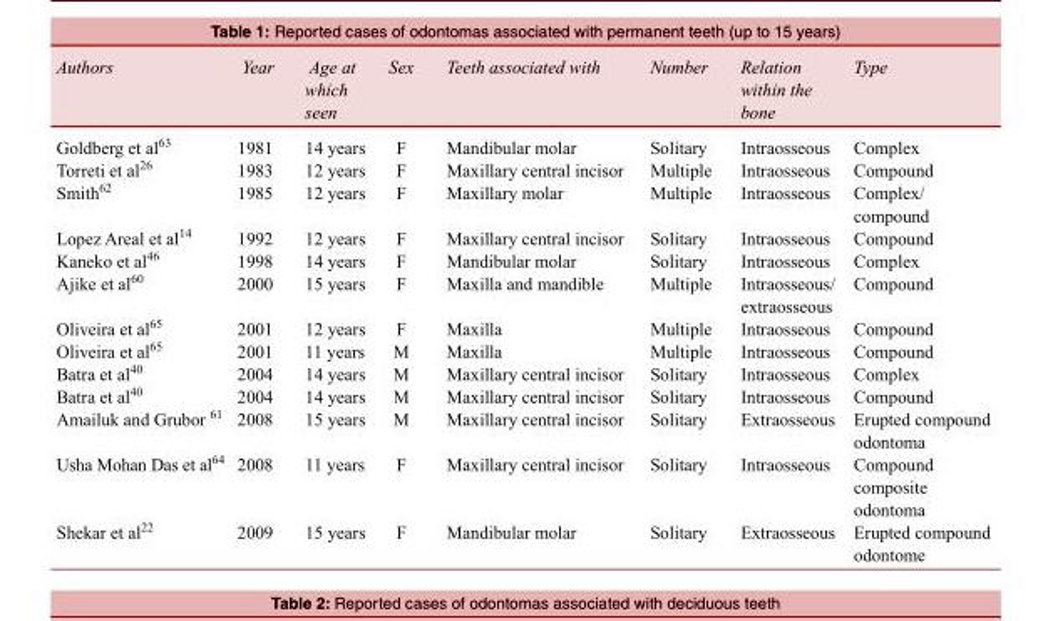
<table><tbody><tr><td>Authors</td><td>Year</td><td>Age at which seen</td><td>Sex</td><td>Teeth associated with</td><td>Number</td><td>Relation within the bone</td><td>Type</td></tr><tr><td>Goldberg et al<sup>63</sup></td><td>1981</td><td>14 years</td><td>F</td><td>Mandibular molar</td><td>Solitary</td><td>Intraosseous</td><td>Complex</td></tr><tr><td>Torreti et al<sup>26</sup></td><td>1983</td><td>12 years</td><td>F</td><td>Maxillary central incisor</td><td>Multiple</td><td>Intraosseous</td><td>Compound</td></tr><tr><td rowspan="2">Smith<sup>62</sup></td><td>1985</td><td>12 years</td><td>F</td><td>Maxillary molar</td><td>Multiple</td><td>Intraosseous</td><td>Complex/</td></tr><tr><td></td><td></td><td></td><td></td><td></td><td></td><td>compound</td></tr><tr><td>Lopez Areal et al<sup>14</sup></td><td>1992</td><td>12 years</td><td>F</td><td>Maxillary central incisor</td><td>Solitary</td><td>Intraosseous</td><td>Compound</td></tr><tr><td>Kaneko et al<sup>46</sup></td><td>1998</td><td>14 years</td><td>F</td><td>Mandibular molar</td><td>Solitary</td><td>Intraosseous</td><td>Complex</td></tr><tr><td rowspan="2">Ajike et al<sup>60</sup></td><td>2000</td><td>15 years</td><td>F</td><td>Maxilla and mandible</td><td>Multiple</td><td>Intraosseous/</td><td>Compound</td></tr><tr><td></td><td></td><td></td><td></td><td></td><td>extraosseous</td><td></td></tr><tr><td>Oliveira et al<sup>65</sup></td><td>2001</td><td>12 years</td><td>F</td><td>Maxilla</td><td>Multiple</td><td>Intraosseous</td><td>Compound</td></tr><tr><td>Oliveira et al<sup>65</sup></td><td>2001</td><td>11 years</td><td>M</td><td>Maxilla</td><td>Multiple</td><td>Intraosseous</td><td>Compound</td></tr><tr><td>Batra et al<sup>40</sup></td><td>2004</td><td>14 years</td><td>M</td><td>Maxillary central incisor</td><td>Solitary</td><td>Intraosseous</td><td>Complex</td></tr><tr><td>Batra et al<sup>40</sup></td><td>2004</td><td>14 years</td><td>M</td><td>Maxillary central incisor</td><td>Solitary</td><td>Intraosseous</td><td>Compound</td></tr><tr><td rowspan="2">Amailuk and Grubor <sup>61</sup></td><td>2008</td><td>15 years</td><td>M</td><td>Maxillary central incisor</td><td>Solitary</td><td>Extraosseous</td><td>Erupted compound</td></tr><tr><td></td><td></td><td></td><td></td><td></td><td></td><td>odontoma</td></tr><tr><td rowspan="3">Usha Mohan Das et al<sup>64</sup></td><td>2008</td><td>11 years</td><td>F</td><td>Maxillary central incisor</td><td>Solitary</td><td>Intraosseous</td><td>Compound</td></tr><tr><td></td><td></td><td></td><td></td><td></td><td></td><td>composite</td></tr><tr><td></td><td></td><td></td><td></td><td></td><td></td><td>odontoma</td></tr><tr><td rowspan="2">Shekar et al<sup>22</sup></td><td>2009</td><td>15 years</td><td>F</td><td>Mandibular molar</td><td>Solitary</td><td>Extraosseous</td><td>Erupted compound</td></tr><tr><td></td><td></td><td></td><td></td><td></td><td></td><td>odontome</td></tr></tbody></table>